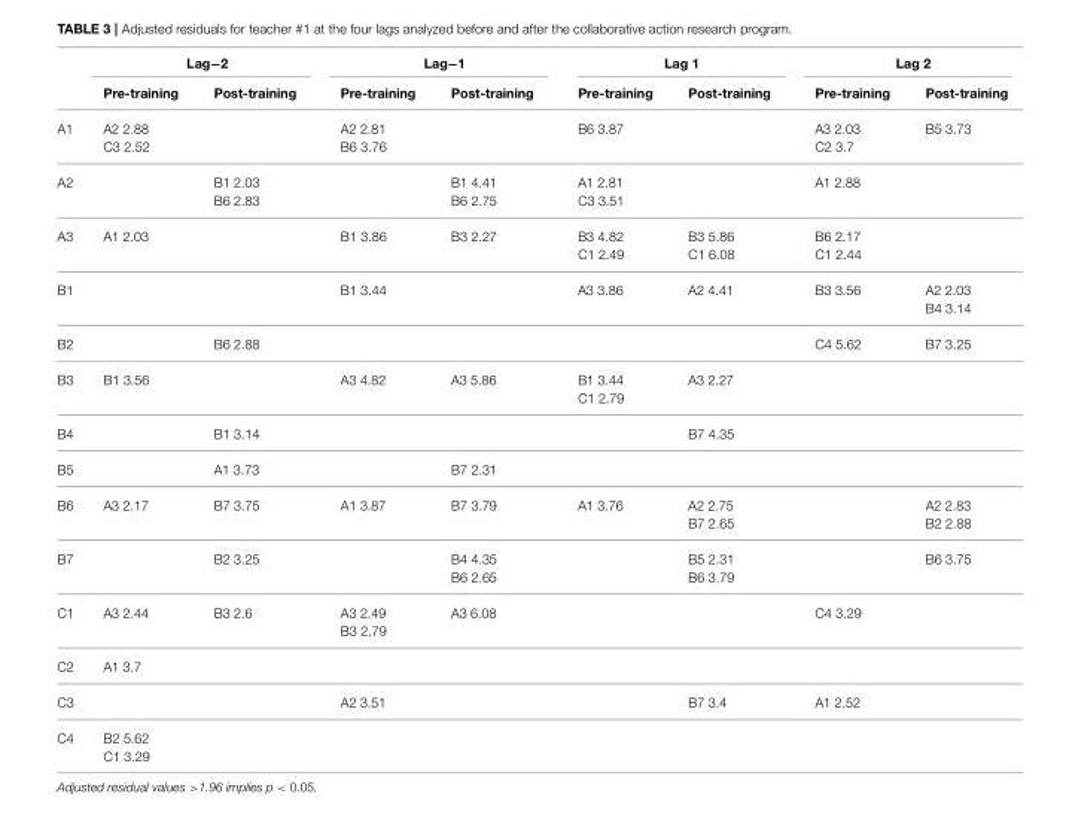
<table><thead><tr><td rowspan="2"></td><td colspan="2">Lag−2</td><td colspan="2">Lag−1</td><td colspan="2">Lag 1</td><td colspan="2">Lag 2</td></tr><tr><td>Pre-training</td><td>Post-training</td><td>Pre-training</td><td>Post-training</td><td>Pre-training</td><td>Post-training</td><td>Pre-training</td><td>Post-training</td></tr></thead><tbody><tr><td>A1</td><td>A2 2.88 C3 2.52</td><td></td><td>A2 2.81 B6 3.76</td><td></td><td>B6 3.87</td><td></td><td>A3 2.03 C2 3.7</td><td>B5 3.73</td></tr><tr><td>A2</td><td></td><td>B1 2.03 B6 2.83</td><td></td><td>B1 4.41 B6 2.75</td><td>A1 2.81 C3 3.51</td><td></td><td>A1 2.88</td><td></td></tr><tr><td>A3</td><td>A1 2.03</td><td></td><td>B1 3.86</td><td>B3 2.27</td><td>B3 4.82 C1 2.49</td><td>B3 5.86 C1 6.08</td><td>B6 2.17 C1 2.44</td><td></td></tr><tr><td>B1</td><td></td><td></td><td>B1 3.44</td><td></td><td>A3 3.86</td><td>A2 4.41</td><td>B3 3.56</td><td>A2 2.03 B4 3.14</td></tr><tr><td>B2</td><td></td><td>B6 2.88</td><td></td><td></td><td></td><td></td><td>C4 5.62</td><td>B7 3.25</td></tr><tr><td>B3</td><td>B1 3.56</td><td></td><td>A3 4.82</td><td>A3 5.86</td><td>B1 3.44 C1 2.79</td><td>A3 2.27</td><td></td><td></td></tr><tr><td>B4</td><td></td><td>B1 3.14</td><td></td><td></td><td></td><td>B7 4.35</td><td></td><td></td></tr><tr><td>B5</td><td></td><td>A1 3.73</td><td></td><td>B7 2.31</td><td></td><td></td><td></td><td></td></tr><tr><td>B6</td><td>A3 2.17</td><td>B7 3.75</td><td>A1 3.87</td><td>B7 3.79</td><td>A1 3.76</td><td>A2 2.75 B7 2.65</td><td></td><td>A2 2.83 B2 2.88</td></tr><tr><td>B7</td><td></td><td>B2 3.25</td><td></td><td>B4 4.35 B6 2.65</td><td></td><td>B5 2.31 B6 3.79</td><td></td><td>B6 3.75</td></tr><tr><td>C1</td><td>A3 2.44</td><td>B3 2.6</td><td>A3 2.49 B3 2.79</td><td>A3 6.08</td><td></td><td></td><td>C4 3.29</td><td></td></tr><tr><td>C2</td><td>A1 3.7</td><td></td><td></td><td></td><td></td><td></td><td></td><td></td></tr><tr><td>C3</td><td></td><td></td><td>A2 3.51</td><td></td><td></td><td>B7 3.4</td><td>A1 2.52</td><td></td></tr><tr><td>C4</td><td>B2 5.62 C1 3.29</td><td></td><td></td><td></td><td></td><td></td><td></td><td></td></tr></tbody></table>